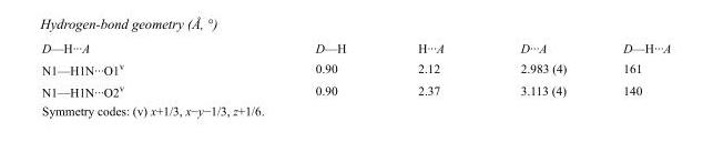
<table><tbody><tr><td>D—H···A</td><td>D—H</td><td>H···A</td><td>D···A</td><td>D—H···A</td></tr><tr><td>N1—H1N···O1<sup>v</sup></td><td>0.90</td><td>2.12</td><td>2.983 (4)</td><td>161</td></tr><tr><td>N1—H1N···O2<sup>v</sup></td><td>0.90</td><td>2.37</td><td>3.113 (4)</td><td>140</td></tr></tbody></table>